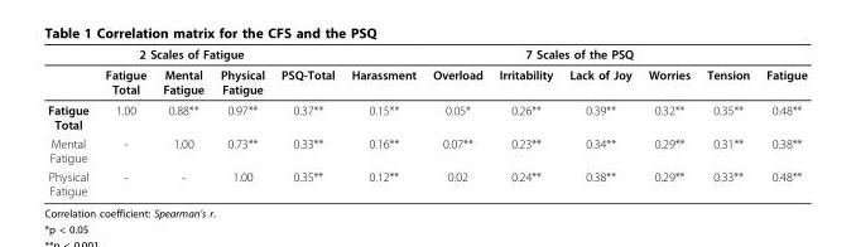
<table><thead><tr><td colspan="5">2 Scales of Fatigue</td><td colspan="7">7 Scales of the PSQ</td></tr><tr><td></td><td>Fatigue Total</td><td>Mental Fatigue</td><td>Physical Fatigue</td><td>PSQ-Total</td><td>Harassment</td><td>Overload</td><td>Irritability</td><td>Lack of Joy</td><td>Worries</td><td>Tension</td><td>Fatigue</td></tr></thead><tbody><tr><td>Fatigue Total</td><td>1.00</td><td>0.88**</td><td>0.97**</td><td>0.37**</td><td>0.15**</td><td>0.05*</td><td>0.26**</td><td>0.39**</td><td>0.32**</td><td>0.35**</td><td>0.48**</td></tr><tr><td>Mental Fatigue</td><td>-</td><td>1.00</td><td>0.73**</td><td>0.33**</td><td>0.16**</td><td>0.07**</td><td>0.23**</td><td>0.34**</td><td>0.29**</td><td>0.31**</td><td>0.38**</td></tr><tr><td>Physical Fatigue</td><td>-</td><td>-</td><td>1.00</td><td>0.35**</td><td>0.12**</td><td>0.02</td><td>0.24**</td><td>0.38**</td><td>0.29**</td><td>0.33**</td><td>0.48**</td></tr></tbody></table>